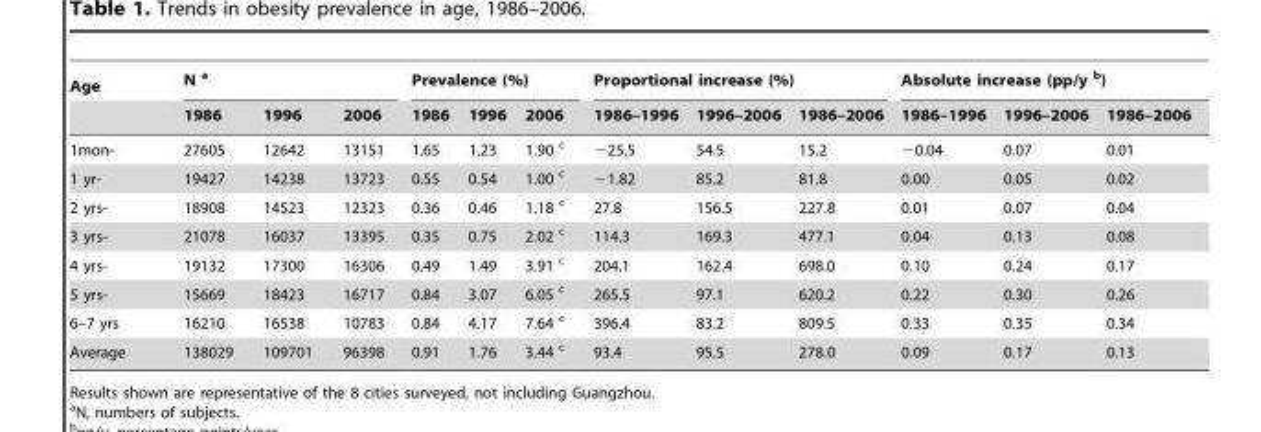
<table><thead><tr><td rowspan="2">Age</td><td colspan="3">N a</td><td colspan="3">Prevalence (%)</td><td colspan="3">Proportional increase (%)</td><td colspan="3">Absolute increase (pp/y b)</td></tr><tr><td>1986</td><td>1996</td><td>2006</td><td>1986</td><td>1996</td><td>2006</td><td>1986–1996</td><td>1996–2006</td><td>1986–2006</td><td>1986–1996</td><td>1996–2006</td><td>1986–2006</td></tr></thead><tbody><tr><td>1mon-</td><td>27605</td><td>12642</td><td>13151</td><td>1.65</td><td>1.23</td><td>1.90 c</td><td>−25.5</td><td>54.5</td><td>15.2</td><td>−0.04</td><td>0.07</td><td>0.01</td></tr><tr><td>1 yr-</td><td>19427</td><td>14238</td><td>13723</td><td>0.55</td><td>0.54</td><td>1.00 c</td><td>−1.82</td><td>85.2</td><td>81.8</td><td>0.00</td><td>0.05</td><td>0.02</td></tr><tr><td>2 yrs-</td><td>18908</td><td>14523</td><td>12323</td><td>0.36</td><td>0.46</td><td>1.18 c</td><td>27.8</td><td>156.5</td><td>227.8</td><td>0.01</td><td>0.07</td><td>0.04</td></tr><tr><td>3 yrs-</td><td>21078</td><td>16037</td><td>13395</td><td>0.35</td><td>0.75</td><td>2.02 c</td><td>114.3</td><td>169.3</td><td>477.1</td><td>0.04</td><td>0.13</td><td>0.08</td></tr><tr><td>4 yrs-</td><td>19132</td><td>17300</td><td>16306</td><td>0.49</td><td>1.49</td><td>3.91 c</td><td>204.1</td><td>162.4</td><td>698.0</td><td>0.10</td><td>0.24</td><td>0.17</td></tr><tr><td>5 yrs-</td><td>15669</td><td>18423</td><td>16717</td><td>0.84</td><td>3.07</td><td>6.05 c</td><td>265.5</td><td>97.1</td><td>620.2</td><td>0.22</td><td>0.30</td><td>0.26</td></tr><tr><td>6–7 yrs</td><td>16210</td><td>16538</td><td>10783</td><td>0.84</td><td>4.17</td><td>7.64 c</td><td>396.4</td><td>83.2</td><td>809.5</td><td>0.33</td><td>0.35</td><td>0.34</td></tr><tr><td>Average</td><td>138029</td><td>109701</td><td>96398</td><td>0.91</td><td>1.76</td><td>3.44 c</td><td>93.4</td><td>95.5</td><td>278.0</td><td>0.09</td><td>0.17</td><td>0.13</td></tr></tbody></table>